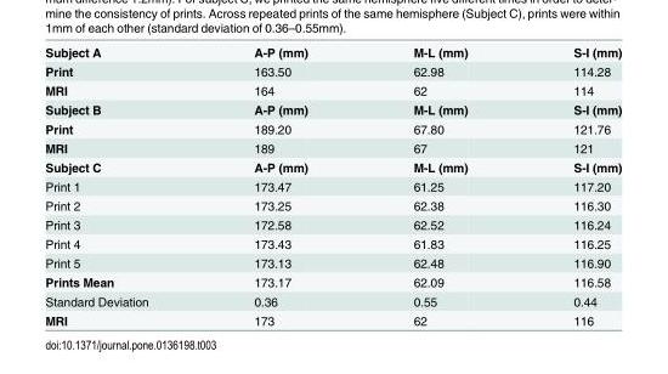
<table><tbody><tr><td>Subject A</td><td>A-P (mm)</td><td>M-L (mm)</td><td>S-I (mm)</td></tr><tr><td>Print</td><td>163.50</td><td>62.98</td><td>114.28</td></tr><tr><td>MRI</td><td>164</td><td>62</td><td>114</td></tr><tr><td>Subject B</td><td>A-P (mm)</td><td>M-L (mm)</td><td>S-I (mm)</td></tr><tr><td>Print</td><td>189.20</td><td>67.80</td><td>121.76</td></tr><tr><td>MRI</td><td>189</td><td>67</td><td>121</td></tr><tr><td>Subject C</td><td>A-P (mm)</td><td>M-L (mm)</td><td>S-I (mm)</td></tr><tr><td>Print 1</td><td>173.47</td><td>61.25</td><td>117.20</td></tr><tr><td>Print 2</td><td>173.25</td><td>62.38</td><td>116.30</td></tr><tr><td>Print 3</td><td>172.58</td><td>62.52</td><td>116.24</td></tr><tr><td>Print 4</td><td>173.43</td><td>61.83</td><td>116.25</td></tr><tr><td>Print 5</td><td>173.13</td><td>62.48</td><td>116.90</td></tr><tr><td>Prints Mean</td><td>173.17</td><td>62.09</td><td>116.58</td></tr><tr><td>Standard Deviation</td><td>0.36</td><td>0.55</td><td>0.44</td></tr><tr><td>MRI</td><td>173</td><td>62</td><td>116</td></tr></tbody></table>